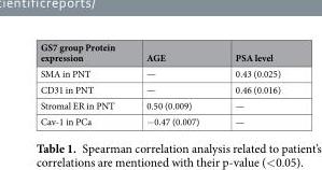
<table><thead><tr><td>GS7 group Protein expression</td><td>AGE</td><td>PSA level</td></tr></thead><tbody><tr><td>SMA in PNT</td><td>—</td><td>0.43 (0.025)</td></tr><tr><td>CD31 in PNT</td><td>—</td><td>0.46 (0.016)</td></tr><tr><td>Stromal ER in PNT</td><td>0.50 (0.009)</td><td>—</td></tr><tr><td>Cav-1 in PCa</td><td>−0.47 (0.007)</td><td>—</td></tr></tbody></table>